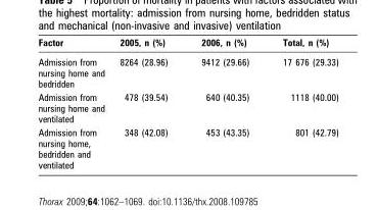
<table><thead><tr><td>Factor</td><td>2005, n (%)</td><td>2006, n (%)</td><td>Total, n (%)</td></tr></thead><tbody><tr><td>Admission from nursing home and bedridden</td><td>8264 (28.96)</td><td>9412 (29.66)</td><td>17 676 (29.33)</td></tr><tr><td>Admission from nursing home and ventilated</td><td>478 (39.54)</td><td>640 (40.35)</td><td>1118 (40.00)</td></tr><tr><td>Admission from nursing home, bedridden and ventilated</td><td>348 (42.08)</td><td>453 (43.35)</td><td>801 (42.79)</td></tr></tbody></table>